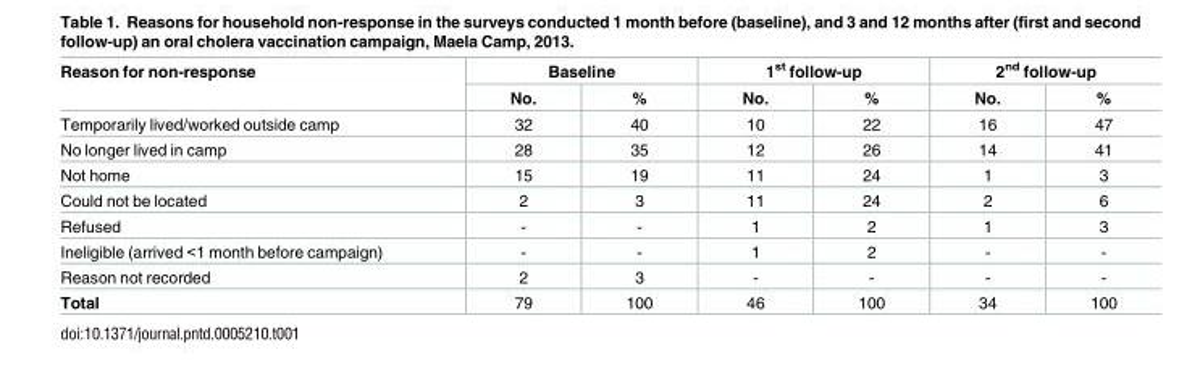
<table><thead><tr><td rowspan="2">Reason for non-response</td><td colspan="2">Baseline</td><td colspan="2">1<sup>st</sup> follow-up</td><td colspan="2">2<sup>nd</sup> follow-up</td></tr><tr><td>No.</td><td>%</td><td>No.</td><td>%</td><td>No.</td><td>%</td></tr></thead><tbody><tr><td>Temporarily lived/worked outside camp</td><td>32</td><td>40</td><td>10</td><td>22</td><td>16</td><td>47</td></tr><tr><td>No longer lived in camp</td><td>28</td><td>35</td><td>12</td><td>26</td><td>14</td><td>41</td></tr><tr><td>Not home</td><td>15</td><td>19</td><td>11</td><td>24</td><td>1</td><td>3</td></tr><tr><td>Could not be located</td><td>2</td><td>3</td><td>11</td><td>24</td><td>2</td><td>6</td></tr><tr><td>Refused</td><td>-</td><td>-</td><td>1</td><td>2</td><td>1</td><td>3</td></tr><tr><td>Ineligible (arrived &lt;1 month before campaign)</td><td>-</td><td>-</td><td>1</td><td>2</td><td>-</td><td>-</td></tr><tr><td>Reason not recorded</td><td>2</td><td>3</td><td>-</td><td>-</td><td>-</td><td>-</td></tr><tr><td>Total</td><td>79</td><td>100</td><td>46</td><td>100</td><td>34</td><td>100</td></tr></tbody></table>